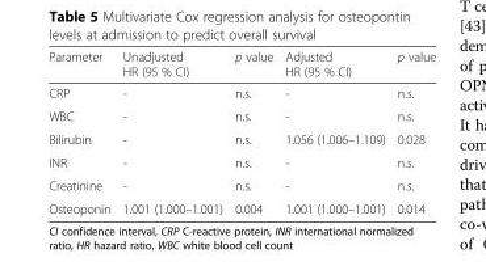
<table><thead><tr><td>Parameter</td><td>Unadjusted HR (95 % CI)</td><td>p value</td><td>Adjusted HR (95 % CI)</td><td>p value</td></tr></thead><tbody><tr><td>CRP</td><td>-</td><td>n.s.</td><td>-</td><td>n.s.</td></tr><tr><td>WBC</td><td>-</td><td>n.s.</td><td>-</td><td>n.s.</td></tr><tr><td>Bilirubin</td><td>-</td><td>n.s.</td><td>1.056 (1.006–1.109)</td><td>0.028</td></tr><tr><td>INR</td><td>-</td><td>n.s.</td><td>-</td><td>n.s.</td></tr><tr><td>Creatinine</td><td>-</td><td>n.s.</td><td>-</td><td>n.s.</td></tr><tr><td>Osteoponin</td><td>1.001 (1.000–1.001)</td><td>0.004</td><td>1.001 (1.000–1.001)</td><td>0.014</td></tr></tbody></table>